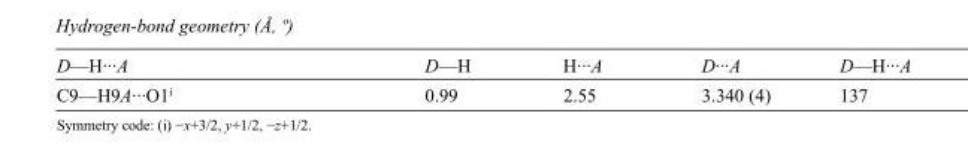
<table><tbody><tr><td>D—H···A</td><td>D—H</td><td>H···A</td><td>D···A</td><td>D—H···A</td></tr><tr><td>C9—H9A···O1<sup>i</sup></td><td>0.99</td><td>2.55</td><td>3.340 (4)</td><td>137</td></tr></tbody></table>